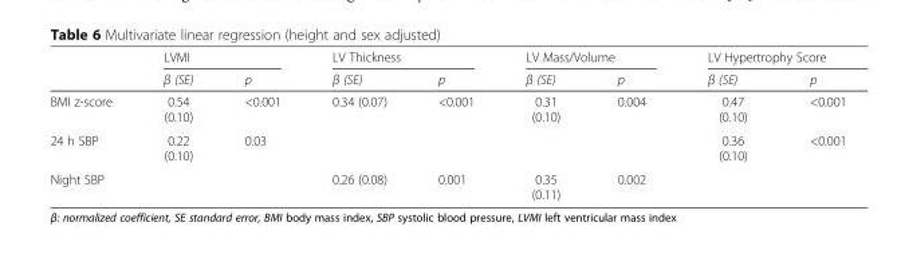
<table><thead><tr><td rowspan="2"></td><td colspan="2">LVMI</td><td colspan="2">LV Thickness</td><td colspan="2">LV Mass/Volume</td><td colspan="2">LV Hypertrophy Score</td></tr><tr><td>β (SE)</td><td>p</td><td>β (SE)</td><td>p</td><td>β (SE)</td><td>p</td><td>β (SE)</td><td>p</td></tr></thead><tbody><tr><td>BMI z-score</td><td>0.54 (0.10)</td><td>&lt;0.001</td><td>0.34 (0.07)</td><td>&lt;0.001</td><td>0.31 (0.10)</td><td>0.004</td><td>0.47 (0.10)</td><td>&lt;0.001</td></tr><tr><td>24 h SBP</td><td>0.22 (0.10)</td><td>0.03</td><td></td><td></td><td></td><td></td><td>0.36 (0.10)</td><td>&lt;0.001</td></tr><tr><td>Night SBP</td><td></td><td></td><td>0.26 (0.08)</td><td>0.001</td><td>0.35 (0.11)</td><td>0.002</td><td></td><td></td></tr></tbody></table>